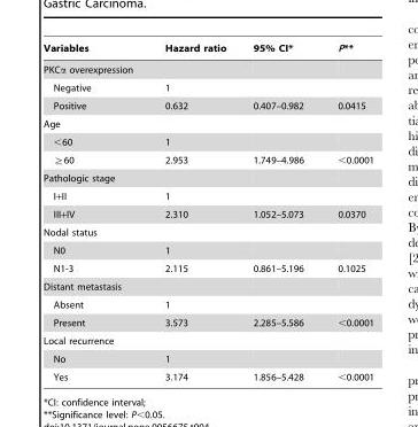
<table><thead><tr><td>Variables</td><td>Hazard ratio</td><td>95% CI*</td><td>P**</td></tr></thead><tbody><tr><td colspan="4">PKCα overexpression</td></tr><tr><td>Negative</td><td>1</td><td></td><td></td></tr><tr><td>Positive</td><td>0.632</td><td>0.407–0.982</td><td>0.0415</td></tr><tr><td colspan="4">Age</td></tr><tr><td>&lt;60</td><td>1</td><td></td><td></td></tr><tr><td>≧60</td><td>2.953</td><td>1.749–4.986</td><td>&lt;0.0001</td></tr><tr><td colspan="4">Pathologic stage</td></tr><tr><td>I+II</td><td>1</td><td></td><td></td></tr><tr><td>III+IV</td><td>2.310</td><td>1.052–5.073</td><td>0.0370</td></tr><tr><td colspan="4">Nodal status</td></tr><tr><td>N0</td><td>1</td><td></td><td></td></tr><tr><td>N1-3</td><td>2.115</td><td>0.861–5.196</td><td>0.1025</td></tr><tr><td colspan="4">Distant metastasis</td></tr><tr><td>Absent</td><td>1</td><td></td><td></td></tr><tr><td>Present</td><td>3.573</td><td>2.285–5.586</td><td>&lt;0.0001</td></tr><tr><td colspan="4">Local recurrence</td></tr><tr><td>No</td><td>1</td><td></td><td></td></tr><tr><td>Yes</td><td>3.174</td><td>1.856–5.428</td><td>&lt;0.0001</td></tr></tbody></table>